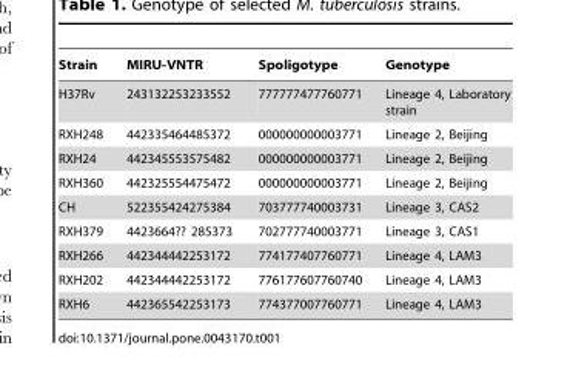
<table><thead><tr><td>Strain</td><td>MIRU-VNTR</td><td>Spoligotype</td><td>Genotype</td></tr></thead><tbody><tr><td>H37Rv</td><td>243132253233552</td><td>777777477760771</td><td>Lineage 4, Laboratory strain</td></tr><tr><td>RXH248</td><td>442335464485372</td><td>000000000003771</td><td>Lineage 2, Beijing</td></tr><tr><td>RXH24</td><td>442345553575482</td><td>000000000003771</td><td>Lineage 2, Beijing</td></tr><tr><td>RXH360</td><td>442325554475472</td><td>000000000003771</td><td>Lineage 2, Beijing</td></tr><tr><td>CH</td><td>522355424275384</td><td>703777740003731</td><td>Lineage 3, CAS2</td></tr><tr><td>RXH379</td><td>4423664?? 285373</td><td>702777740003771</td><td>Lineage 3, CAS1</td></tr><tr><td>RXH266</td><td>442344442253172</td><td>774177407760771</td><td>Lineage 4, LAM3</td></tr><tr><td>RXH202</td><td>442344442253172</td><td>776177607760740</td><td>Lineage 4, LAM3</td></tr><tr><td>RXH6</td><td>442365542253173</td><td>774377007760771</td><td>Lineage 4, LAM3</td></tr></tbody></table>